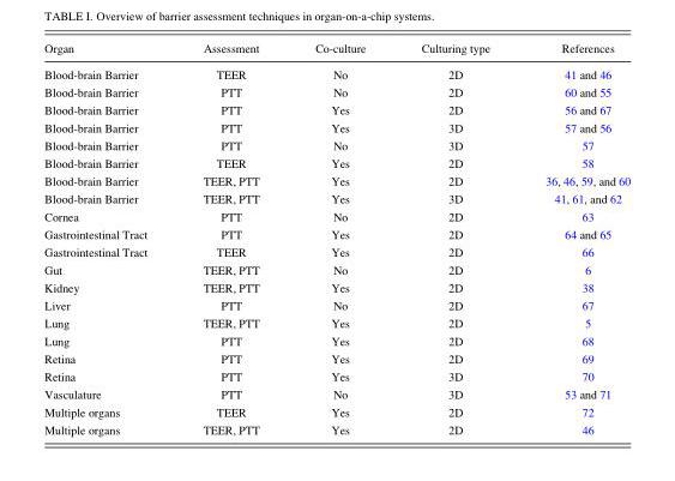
<table><thead><tr><td>Organ</td><td>Assessment</td><td>Co-culture</td><td>Culturing type</td><td>References</td></tr></thead><tbody><tr><td>Blood-brain Barrier</td><td>TEER</td><td>No</td><td>2D</td><td>41 and 46</td></tr><tr><td>Blood-brain Barrier</td><td>PTT</td><td>No</td><td>2D</td><td>60 and 55</td></tr><tr><td>Blood-brain Barrier</td><td>PTT</td><td>Yes</td><td>2D</td><td>56 and 67</td></tr><tr><td>Blood-brain Barrier</td><td>PTT</td><td>Yes</td><td>3D</td><td>57 and 56</td></tr><tr><td>Blood-brain Barrier</td><td>PTT</td><td>No</td><td>3D</td><td>57</td></tr><tr><td>Blood-brain Barrier</td><td>TEER</td><td>Yes</td><td>2D</td><td>58</td></tr><tr><td>Blood-brain Barrier</td><td>TEER, PTT</td><td>Yes</td><td>2D</td><td>36, 46, 59, and 60</td></tr><tr><td>Blood-brain Barrier</td><td>TEER, PTT</td><td>Yes</td><td>3D</td><td>41, 61, and 62</td></tr><tr><td>Cornea</td><td>PTT</td><td>No</td><td>2D</td><td>63</td></tr><tr><td>Gastrointestinal Tract</td><td>PTT</td><td>Yes</td><td>2D</td><td>64 and 65</td></tr><tr><td>Gastrointestinal Tract</td><td>TEER</td><td>Yes</td><td>2D</td><td>66</td></tr><tr><td>Gut</td><td>TEER, PTT</td><td>No</td><td>2D</td><td>6</td></tr><tr><td>Kidney</td><td>TEER, PTT</td><td>Yes</td><td>2D</td><td>38</td></tr><tr><td>Liver</td><td>PTT</td><td>No</td><td>2D</td><td>67</td></tr><tr><td>Lung</td><td>TEER, PTT</td><td>Yes</td><td>2D</td><td>5</td></tr><tr><td>Lung</td><td>PTT</td><td>Yes</td><td>2D</td><td>68</td></tr><tr><td>Retina</td><td>PTT</td><td>Yes</td><td>2D</td><td>69</td></tr><tr><td>Retina</td><td>PTT</td><td>Yes</td><td>3D</td><td>70</td></tr><tr><td>Vasculature</td><td>PTT</td><td>No</td><td>3D</td><td>53 and 71</td></tr><tr><td>Multiple organs</td><td>TEER</td><td>Yes</td><td>2D</td><td>72</td></tr><tr><td>Multiple organs</td><td>TEER, PTT</td><td>Yes</td><td>2D</td><td>46</td></tr></tbody></table>